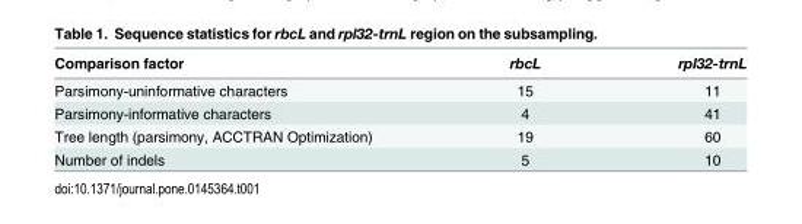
<table><thead><tr><td>Comparison factor</td><td>rbcL</td><td>rpl32-trnL</td></tr></thead><tbody><tr><td>Parsimony-uninformative characters</td><td>15</td><td>11</td></tr><tr><td>Parsimony-informative characters</td><td>4</td><td>41</td></tr><tr><td>Tree length (parsimony, ACCTRAN Optimization)</td><td>19</td><td>60</td></tr><tr><td>Number of indels</td><td>5</td><td>10</td></tr></tbody></table>